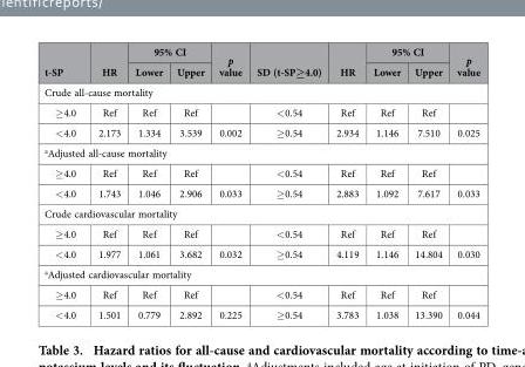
<table><thead><tr><td rowspan="2">t-SP</td><td rowspan="2">HR</td><td colspan="2">95% CI</td><td rowspan="2">p value</td><td rowspan="2">SD (t-SP≥4.0)</td><td rowspan="2">HR</td><td colspan="2">95% CI</td><td rowspan="2">p value</td></tr><tr><td>Lower</td><td>Upper</td><td>Lower</td><td>Upper</td></tr></thead><tbody><tr><td colspan="10">Crude all-cause mortality</td></tr><tr><td>≥ 4.0</td><td>Ref</td><td>Ref</td><td>Ref</td><td></td><td>&lt; 0.54</td><td>Ref</td><td>Ref</td><td>Ref</td><td></td></tr><tr><td>&lt; 4.0</td><td>2.173</td><td>1.334</td><td>3.539</td><td>0.002</td><td>≥ 0.54</td><td>2.934</td><td>1.146</td><td>7.510</td><td>0.025</td></tr><tr><td colspan="10">aAdjusted all-cause mortality</td></tr><tr><td>≥ 4.0</td><td>Ref</td><td>Ref</td><td>Ref</td><td></td><td>&lt; 0.54</td><td>Ref</td><td>Ref</td><td>Ref</td><td></td></tr><tr><td>&lt; 4.0</td><td>1.743</td><td>1.046</td><td>2.906</td><td>0.033</td><td>≥ 0.54</td><td>2.883</td><td>1.092</td><td>7.617</td><td>0.033</td></tr><tr><td colspan="10">Crude cardiovascular mortality</td></tr><tr><td>≥ 4.0</td><td>Ref</td><td>Ref</td><td>Ref</td><td></td><td>&lt; 0.54</td><td>Ref</td><td>Ref</td><td>Ref</td><td></td></tr><tr><td>&lt; 4.0</td><td>1.977</td><td>1.061</td><td>3.682</td><td>0.032</td><td>≥ 0.54</td><td>4.119</td><td>1.146</td><td>14.804</td><td>0.030</td></tr><tr><td colspan="10">aAdjusted cardiovascular mortality</td></tr><tr><td>≥ 4.0</td><td>Ref</td><td>Ref</td><td>Ref</td><td></td><td>&lt; 0.54</td><td>Ref</td><td>Ref</td><td>Ref</td><td></td></tr><tr><td>&lt; 4.0</td><td>1.501</td><td>0.779</td><td>2.892</td><td>0.225</td><td>≥ 0.54</td><td>3.783</td><td>1.038</td><td>13.390</td><td>0.044</td></tr></tbody></table>